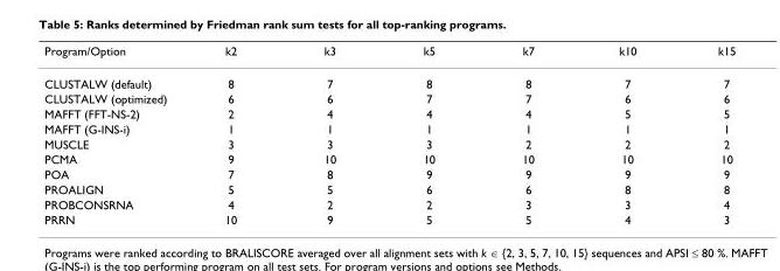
<table><thead><tr><td>Program/Option</td><td>k2</td><td>k3</td><td>k5</td><td>k7</td><td>k10</td><td>k15</td></tr></thead><tbody><tr><td>CLUSTALW (default)</td><td>8</td><td>7</td><td>8</td><td>8</td><td>7</td><td>7</td></tr><tr><td>CLUSTALW (optimized)</td><td>6</td><td>6</td><td>7</td><td>7</td><td>6</td><td>6</td></tr><tr><td>MAFFT (FFT-NS-2)</td><td>2</td><td>4</td><td>4</td><td>4</td><td>5</td><td>5</td></tr><tr><td>MAFFT (G-INS-i)</td><td>1</td><td>1</td><td>1</td><td>1</td><td>1</td><td>1</td></tr><tr><td>MUSCLE</td><td>3</td><td>3</td><td>3</td><td>2</td><td>2</td><td>2</td></tr><tr><td>PCMA</td><td>9</td><td>10</td><td>10</td><td>10</td><td>10</td><td>10</td></tr><tr><td>POA</td><td>7</td><td>8</td><td>9</td><td>9</td><td>9</td><td>9</td></tr><tr><td>PROALIGN</td><td>5</td><td>5</td><td>6</td><td>6</td><td>8</td><td>8</td></tr><tr><td>PROBCONSRNA</td><td>4</td><td>2</td><td>2</td><td>3</td><td>3</td><td>4</td></tr><tr><td>PRRN</td><td>10</td><td>9</td><td>5</td><td>5</td><td>4</td><td>3</td></tr></tbody></table>